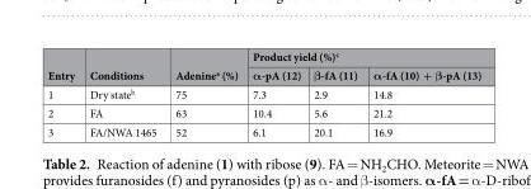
<table><thead><tr><td rowspan="2">Entry</td><td rowspan="2">Conditions</td><td rowspan="2">Adenine<sup>a</sup> (%)</td><td colspan="3">Product yield (%)<sup>c</sup></td></tr><tr><td>α-pA (12)</td><td>β-fA (11)</td><td>α-fA (10) + β-pA (13)</td></tr></thead><tbody><tr><td>1</td><td>Dry state<sup>b</sup></td><td>75</td><td>7.3</td><td>2.9</td><td>14.8</td></tr><tr><td>2</td><td>FA</td><td>63</td><td>10.4</td><td>5.6</td><td>21.2</td></tr><tr><td>3</td><td>FA/NWA 1465</td><td>52</td><td>6.1</td><td>20.1</td><td>16.9</td></tr></tbody></table>